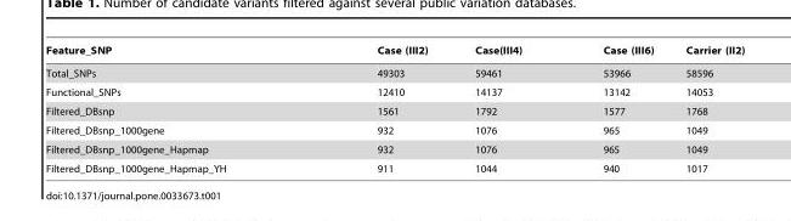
<table><thead><tr><td>Feature_SNP</td><td>Case (III2)</td><td>Case(III4)</td><td>Case (III6)</td><td>Carrier (II2)</td></tr></thead><tbody><tr><td>Total_SNPs</td><td>49303</td><td>59461</td><td>53966</td><td>58596</td></tr><tr><td>Functional_SNPs</td><td>12410</td><td>14137</td><td>13142</td><td>14053</td></tr><tr><td>Filtered_DBsnp</td><td>1561</td><td>1792</td><td>1577</td><td>1768</td></tr><tr><td>Filtered_DBsnp_1000gene</td><td>932</td><td>1076</td><td>965</td><td>1049</td></tr><tr><td>Filtered_DBsnp_1000gene_Hapmap</td><td>932</td><td>1076</td><td>965</td><td>1049</td></tr><tr><td>Filtered_DBsnp_1000gene_Hapmap_YH</td><td>911</td><td>1044</td><td>940</td><td>1017</td></tr></tbody></table>